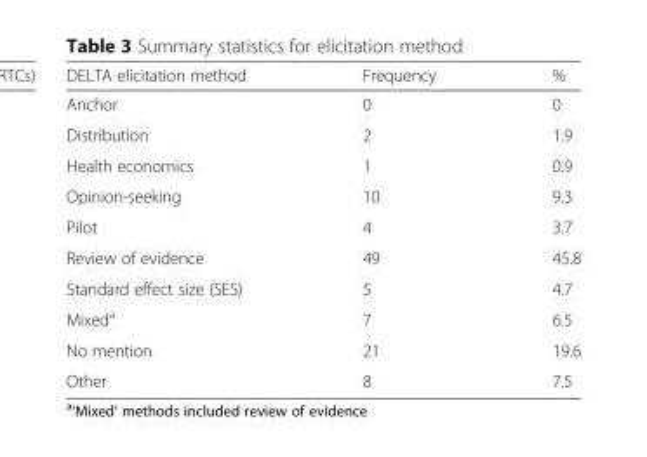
<table><thead><tr><td>DELTA elicitation method</td><td>Frequency</td><td>%</td></tr></thead><tbody><tr><td>Anchor</td><td>0</td><td>0</td></tr><tr><td>Distribution</td><td>2</td><td>1.9</td></tr><tr><td>Health economics</td><td>1</td><td>0.9</td></tr><tr><td>Opinion-seeking</td><td>10</td><td>9.3</td></tr><tr><td>Pilot</td><td>4</td><td>3.7</td></tr><tr><td>Review of evidence</td><td>49</td><td>45.8</td></tr><tr><td>Standard effect size (SES)</td><td>5</td><td>4.7</td></tr><tr><td>Mixed<sup>a</sup></td><td>7</td><td>6.5</td></tr><tr><td>No mention</td><td>21</td><td>19.6</td></tr><tr><td>Other</td><td>8</td><td>7.5</td></tr></tbody></table>